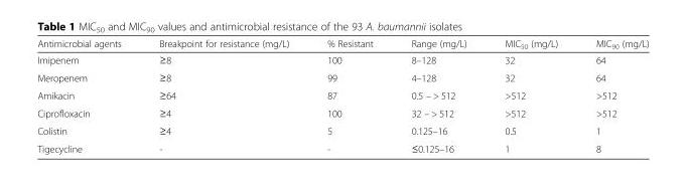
<table><thead><tr><td>Antimicrobial agents</td><td>Breakpoint for resistance (mg/L)</td><td>% Resistant</td><td>Range (mg/L)</td><td>MIC<sub>50</sub> (mg/L)</td><td>MIC<sub>90</sub> (mg/L)</td></tr></thead><tbody><tr><td>Imipenem</td><td>≥8</td><td>100</td><td>8–128</td><td>32</td><td>64</td></tr><tr><td>Meropenem</td><td>≥8</td><td>99</td><td>4–128</td><td>32</td><td>64</td></tr><tr><td>Amikacin</td><td>≥64</td><td>87</td><td>0.5 – &gt; 512</td><td>&gt;512</td><td>&gt;512</td></tr><tr><td>Ciprofloxacin</td><td>≥4</td><td>100</td><td>32 – &gt; 512</td><td>&gt;512</td><td>&gt;512</td></tr><tr><td>Colistin</td><td>≥4</td><td>5</td><td>0.125–16</td><td>0.5</td><td>1</td></tr><tr><td>Tigecycline</td><td>-</td><td>-</td><td>≤0.125–16</td><td>1</td><td>8</td></tr></tbody></table>